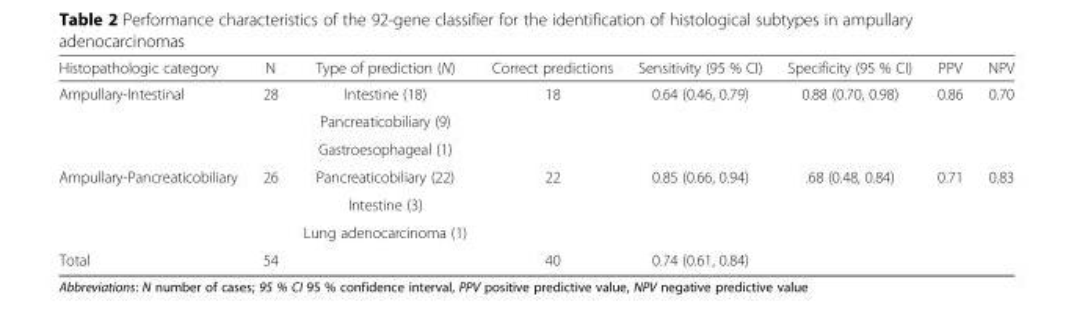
<table><thead><tr><td>Histopathologic category</td><td>N</td><td>Type of prediction (N)</td><td>Correct predictions</td><td>Sensitivity (95 % CI)</td><td>Specificity (95 % CI)</td><td>PPV</td><td>NPV</td></tr></thead><tbody><tr><td rowspan="3">Ampullary-Intestinal</td><td rowspan="3">28</td><td>Intestine (18)</td><td rowspan="3">18</td><td rowspan="3">0.64 (0.46, 0.79)</td><td rowspan="3">0.88 (0.70, 0.98)</td><td rowspan="3">0.86</td><td rowspan="3">0.70</td></tr><tr><td>Pancreaticobiliary (9)</td></tr><tr><td>Gastroesophageal (1)</td></tr><tr><td rowspan="3">Ampullary-Pancreaticobiliary</td><td rowspan="3">26</td><td>Pancreaticobiliary (22)</td><td rowspan="3">22</td><td rowspan="3">0.85 (0.66, 0.94)</td><td rowspan="3">.68 (0.48, 0.84)</td><td rowspan="3">0.71</td><td rowspan="3">0.83</td></tr><tr><td>Intestine (3)</td></tr><tr><td>Lung adenocarcinoma (1)</td></tr><tr><td>Total</td><td>54</td><td></td><td>40</td><td>0.74 (0.61, 0.84)</td><td></td><td></td><td></td></tr></tbody></table>